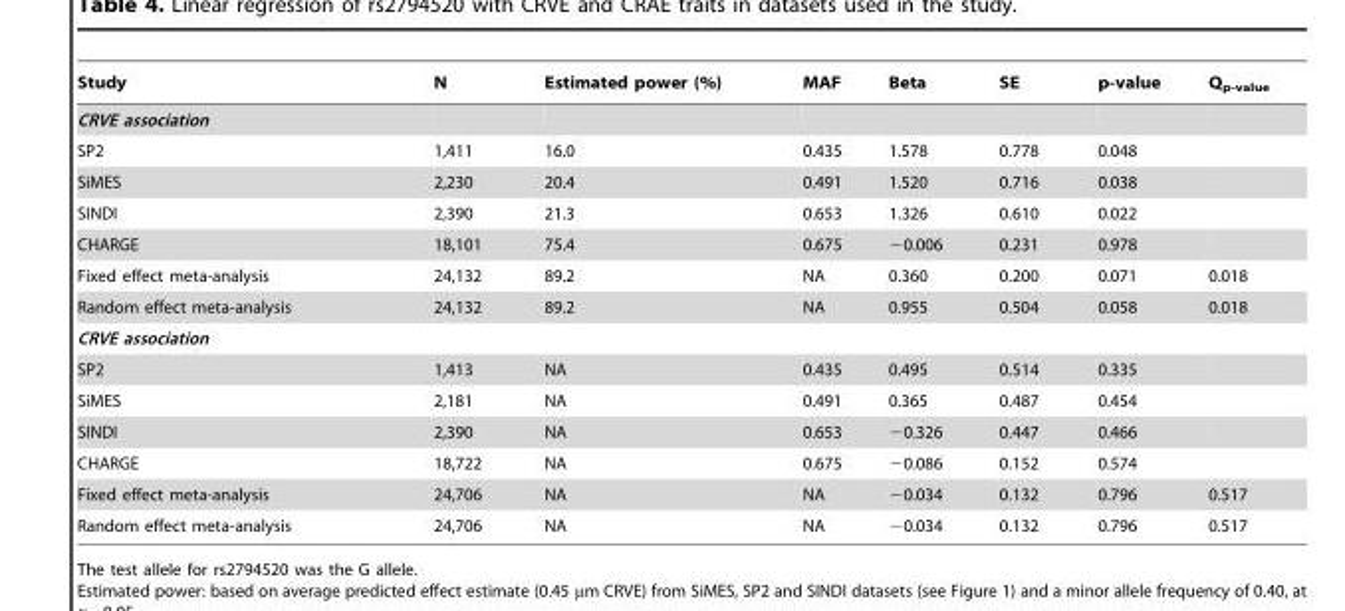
<table><thead><tr><td>Study</td><td>N</td><td>Estimated power (%)</td><td>MAF</td><td>Beta</td><td>SE</td><td>p-value</td><td>Q<sub>p-value</sub></td></tr></thead><tbody><tr><td colspan="8">CRVE association</td></tr><tr><td>SP2</td><td>1,411</td><td>16.0</td><td>0.435</td><td>1.578</td><td>0.778</td><td>0.048</td><td></td></tr><tr><td>SiMES</td><td>2,230</td><td>20.4</td><td>0.491</td><td>1.520</td><td>0.716</td><td>0.038</td><td></td></tr><tr><td>SINDI</td><td>2,390</td><td>21.3</td><td>0.653</td><td>1.326</td><td>0.610</td><td>0.022</td><td></td></tr><tr><td>CHARGE</td><td>18,101</td><td>75.4</td><td>0.675</td><td>−0.006</td><td>0.231</td><td>0.978</td><td></td></tr><tr><td>Fixed effect meta-analysis</td><td>24,132</td><td>89.2</td><td>NA</td><td>0.360</td><td>0.200</td><td>0.071</td><td>0.018</td></tr><tr><td>Random effect meta-analysis</td><td>24,132</td><td>89.2</td><td>NA</td><td>0.955</td><td>0.504</td><td>0.058</td><td>0.018</td></tr><tr><td colspan="8">CRVE association</td></tr><tr><td>SP2</td><td>1,413</td><td>NA</td><td>0.435</td><td>0.495</td><td>0.514</td><td>0.335</td><td></td></tr><tr><td>SiMES</td><td>2,181</td><td>NA</td><td>0.491</td><td>0.365</td><td>0.487</td><td>0.454</td><td></td></tr><tr><td>SINDI</td><td>2,390</td><td>NA</td><td>0.653</td><td>−0.326</td><td>0.447</td><td>0.466</td><td></td></tr><tr><td>CHARGE</td><td>18,722</td><td>NA</td><td>0.675</td><td>−0.086</td><td>0.152</td><td>0.574</td><td></td></tr><tr><td>Fixed effect meta-analysis</td><td>24,706</td><td>NA</td><td>NA</td><td>−0.034</td><td>0.132</td><td>0.796</td><td>0.517</td></tr><tr><td>Random effect meta-analysis</td><td>24,706</td><td>NA</td><td>NA</td><td>−0.034</td><td>0.132</td><td>0.796</td><td>0.517</td></tr></tbody></table>